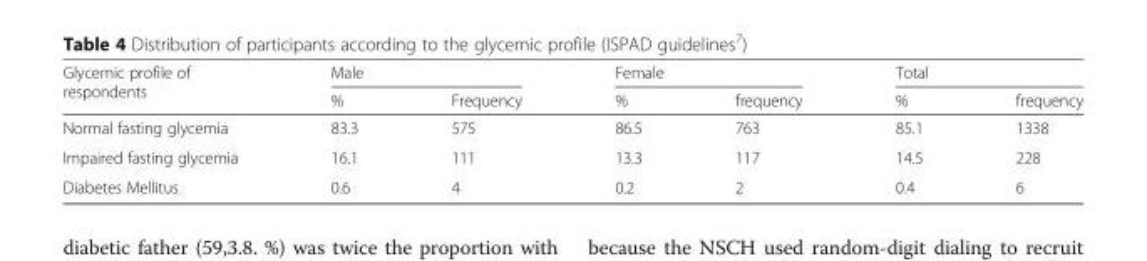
<table><thead><tr><td rowspan="2">Glycemic profile of respondents</td><td colspan="2">Male</td><td colspan="2">Female</td><td colspan="2">Total</td></tr><tr><td>%</td><td>Frequency</td><td>%</td><td>frequency</td><td>%</td><td>frequency</td></tr></thead><tbody><tr><td>Normal fasting glycemia</td><td>83.3</td><td>575</td><td>86.5</td><td>763</td><td>85.1</td><td>1338</td></tr><tr><td>Impaired fasting glycemia</td><td>16.1</td><td>111</td><td>13.3</td><td>117</td><td>14.5</td><td>228</td></tr><tr><td>Diabetes Mellitus</td><td>0.6</td><td>4</td><td>0.2</td><td>2</td><td>0.4</td><td>6</td></tr></tbody></table>